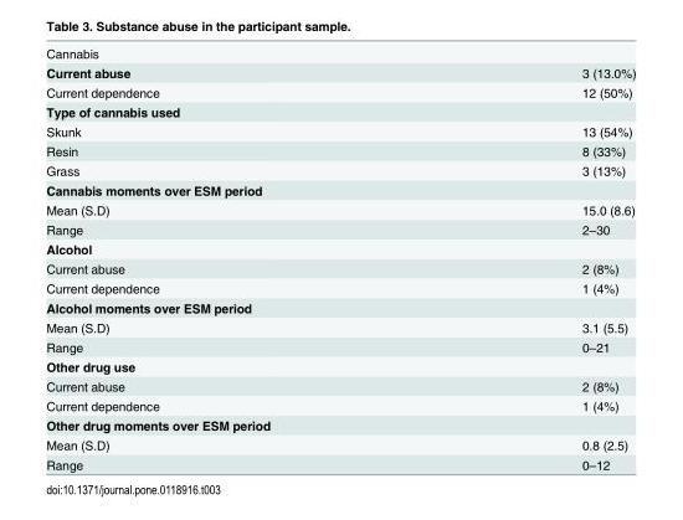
<table><tbody><tr><td colspan="2">Cannabis</td></tr><tr><td>Current abuse</td><td>3 (13.0%)</td></tr><tr><td>Current dependence</td><td>12 (50%)</td></tr><tr><td colspan="2">Type of cannabis used</td></tr><tr><td>Skunk</td><td>13 (54%)</td></tr><tr><td>Resin</td><td>8 (33%)</td></tr><tr><td>Grass</td><td>3 (13%)</td></tr><tr><td colspan="2">Cannabis moments over ESM period</td></tr><tr><td>Mean (S.D)</td><td>15.0 (8.6)</td></tr><tr><td>Range</td><td>2–30</td></tr><tr><td colspan="2">Alcohol</td></tr><tr><td>Current abuse</td><td>2 (8%)</td></tr><tr><td>Current dependence</td><td>1 (4%)</td></tr><tr><td colspan="2">Alcohol moments over ESM period</td></tr><tr><td>Mean (S.D)</td><td>3.1 (5.5)</td></tr><tr><td>Range</td><td>0–21</td></tr><tr><td colspan="2">Other drug use</td></tr><tr><td>Current abuse</td><td>2 (8%)</td></tr><tr><td>Current dependence</td><td>1 (4%)</td></tr><tr><td colspan="2">Other drug moments over ESM period</td></tr><tr><td>Mean (S.D)</td><td>0.8 (2.5)</td></tr><tr><td>Range</td><td>0–12</td></tr></tbody></table>